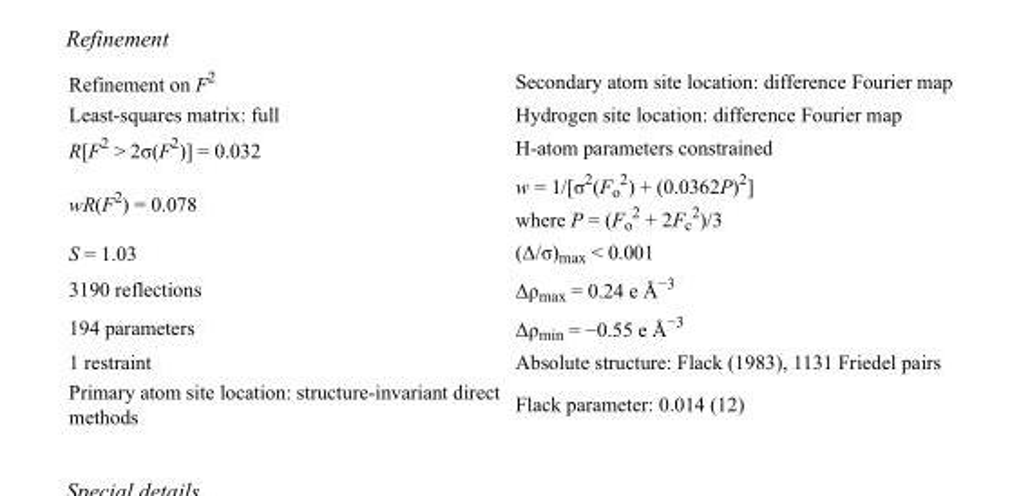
<table><tbody><tr><td>Refinement on F<sup>2</sup></td><td>Secondary atom site location: difference Fourier map</td></tr><tr><td>Least-squares matrix: full</td><td>Hydrogen site location: difference Fourier map</td></tr><tr><td>R[F<sup>2</sup> &gt; 2σ(F<sup>2</sup>)] = 0.032</td><td>H-atom parameters constrained</td></tr><tr><td>wR(F<sup>2</sup>) = 0.078</td><td>w = 1/[σ<sup>2</sup>(F<sub>o</sub> <sup>2</sup>) + (0.0362P)<sup>2</sup>] where P = (F<sub>o</sub> <sup>2</sup> + 2F<sub>c</sub> <sup>2</sup>)/3</td></tr><tr><td>S = 1.03</td><td>(Δ/σ)<sub>max</sub> &lt; 0.001</td></tr><tr><td>3190 reflections</td><td>Δρ<sub>max</sub> = 0.24 e Å<sup>−3</sup></td></tr><tr><td>194 parameters</td><td>Δρ<sub>min</sub> = −0.55 e Å<sup>−3</sup></td></tr><tr><td>1 restraint</td><td>Absolute structure: Flack (1983), 1131 Friedel pairs</td></tr><tr><td>Primary atom site location: structure-invariant direct methods</td><td>Flack parameter: 0.014 (12)</td></tr></tbody></table>